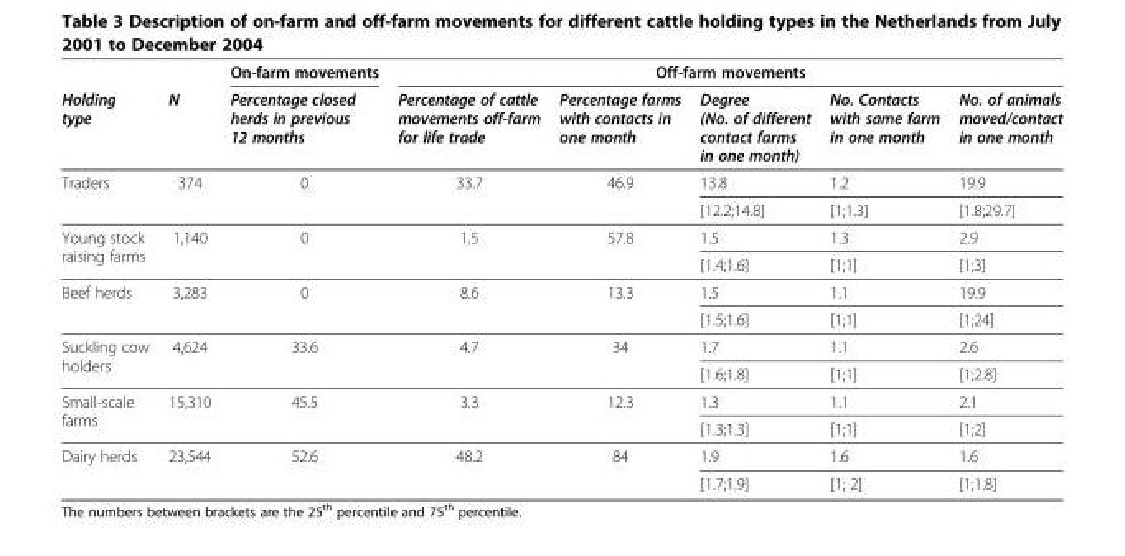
<table><thead><tr><td rowspan="2">Holding type</td><td rowspan="2">N</td><td rowspan="2">On-farm movements Percentage closed herds in previous 12 months</td><td colspan="5">Off-farm movements</td></tr><tr><td>Percentage of cattle movements off-farm for life trade</td><td>Percentage farms with contacts in one month</td><td>Degree (No. of different contact farms in one month)</td><td>No. Contacts with same farm in one month</td><td>No. of animals moved/contact in one month</td></tr></thead><tbody><tr><td rowspan="2">Traders</td><td rowspan="2">374</td><td rowspan="2">0</td><td rowspan="2">33.7</td><td rowspan="2">46.9</td><td>13.8</td><td>1.2</td><td>19.9</td></tr><tr><td>[12.2;14.8]</td><td>[1;1.3]</td><td>[1.8;29.7]</td></tr><tr><td rowspan="2">Young stock raising farms</td><td rowspan="2">1,140</td><td rowspan="2">0</td><td rowspan="2">1.5</td><td rowspan="2">57.8</td><td>1.5</td><td>1.3</td><td>2.9</td></tr><tr><td>[1.4;1.6]</td><td>[1;1]</td><td>[1;3]</td></tr><tr><td rowspan="2">Beef herds</td><td rowspan="2">3,283</td><td rowspan="2">0</td><td rowspan="2">8.6</td><td rowspan="2">13.3</td><td>1.5</td><td>1.1</td><td>19.9</td></tr><tr><td>[1.5;1.6]</td><td>[1;1]</td><td>[1;24]</td></tr><tr><td rowspan="2">Suckling cow holders</td><td rowspan="2">4,624</td><td rowspan="2">33.6</td><td rowspan="2">4.7</td><td rowspan="2">34</td><td>1.7</td><td>1.1</td><td>2.6</td></tr><tr><td>[1.6;1.8]</td><td>[1;1]</td><td>[1;2.8]</td></tr><tr><td rowspan="2">Small-scale farms</td><td rowspan="2">15,310</td><td rowspan="2">45.5</td><td rowspan="2">3.3</td><td rowspan="2">12.3</td><td>1.3</td><td>1.1</td><td>2.1</td></tr><tr><td>[1.3;1.3]</td><td>[1;1]</td><td>[1;2]</td></tr><tr><td rowspan="2">Dairy herds</td><td rowspan="2">23,544</td><td rowspan="2">52.6</td><td rowspan="2">48.2</td><td rowspan="2">84</td><td>1.9</td><td>1.6</td><td>1.6</td></tr><tr><td>[1.7;1.9]</td><td>[1; 2]</td><td>[1;1.8]</td></tr></tbody></table>